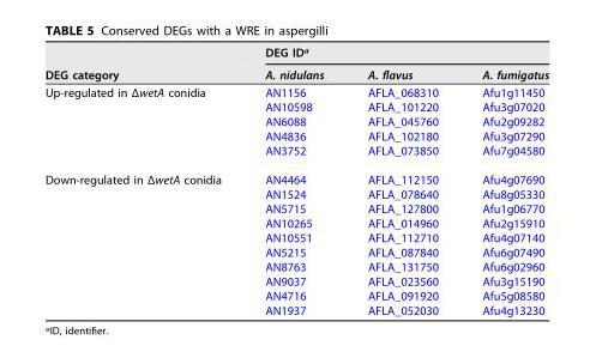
<table><thead><tr><td rowspan="2">DEG category</td><td colspan="3">DEG ID<sup>a</sup></td></tr><tr><td>A. nidulans</td><td>A. flavus</td><td>A. fumigatus</td></tr></thead><tbody><tr><td rowspan="5">Up-regulated in ΔwetA conidia</td><td>AN1156</td><td>AFLA_068310</td><td>Afu1g11450</td></tr><tr><td>AN10598</td><td>AFLA_101220</td><td>Afu3g07020</td></tr><tr><td>AN6088</td><td>AFLA_045760</td><td>Afu2g09282</td></tr><tr><td>AN4836</td><td>AFLA_102180</td><td>Afu3g07290</td></tr><tr><td>AN3752</td><td>AFLA_073850</td><td>Afu7g04580</td></tr><tr><td rowspan="10">Down-regulated in ΔwetA conidia</td><td>AN4464</td><td>AFLA_112150</td><td>Afu4g07690</td></tr><tr><td>AN1524</td><td>AFLA_078640</td><td>Afu8g05330</td></tr><tr><td>AN5715</td><td>AFLA_127800</td><td>Afu1g06770</td></tr><tr><td>AN10265</td><td>AFLA_014960</td><td>Afu2g15910</td></tr><tr><td>AN10551</td><td>AFLA_112710</td><td>Afu4g07140</td></tr><tr><td>AN5215</td><td>AFLA_087840</td><td>Afu6g07490</td></tr><tr><td>AN8763</td><td>AFLA_131750</td><td>Afu6g02960</td></tr><tr><td>AN9037</td><td>AFLA_023560</td><td>Afu3g15190</td></tr><tr><td>AN4716</td><td>AFLA_091920</td><td>Afu5g08580</td></tr><tr><td>AN1937</td><td>AFLA_052030</td><td>Afu4g13230</td></tr></tbody></table>